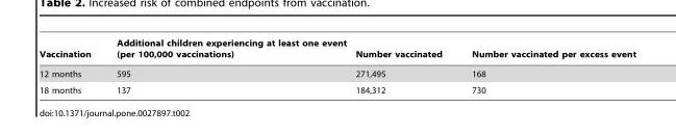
<table><thead><tr><td>Vaccination</td><td>Additional children experiencing at least one event (per 100,000 vaccinations)</td><td>Number vaccinated</td><td>Number vaccinated per excess event</td></tr></thead><tbody><tr><td>12 months</td><td>595</td><td>271,495</td><td>168</td></tr><tr><td>18 months</td><td>137</td><td>184,312</td><td>730</td></tr></tbody></table>